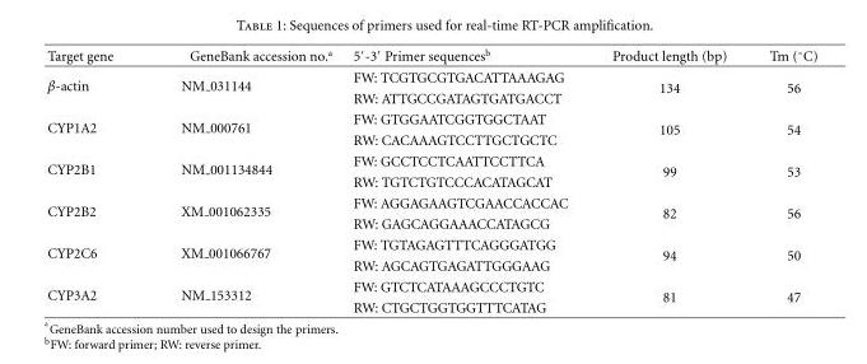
<table><thead><tr><td>Target gene</td><td>GeneBank accession no.<sup>a</sup></td><td>5′-3′ Primer sequences<sup>b</sup></td><td>Product length (bp)</td><td>Tm (◦C)</td></tr></thead><tbody><tr><td rowspan="2">β-actin</td><td rowspan="2">NM 031144</td><td>FW: TCGTGCGTGACATTAAAGAG</td><td rowspan="2">134</td><td rowspan="2">56</td></tr><tr><td>RW: ATTGCCGATAGTGATGACCT</td></tr><tr><td rowspan="2">CYP1A2</td><td rowspan="2">NM 000761</td><td>FW: GTGGAATCGGTGGCTAAT</td><td rowspan="2">105</td><td rowspan="2">54</td></tr><tr><td>RW: CACAAAGTCCTTGCTGCTC</td></tr><tr><td rowspan="2">CYP2B1</td><td rowspan="2">NM 001134844</td><td>FW: GCCTCCTCAATTCCTTCA</td><td rowspan="2">99</td><td rowspan="2">53</td></tr><tr><td>RW: TGTCTGTCCCACATAGCAT</td></tr><tr><td rowspan="2">CYP2B2</td><td rowspan="2">XM 001062335</td><td>FW: AGGAGAAGTCGAACCACCAC</td><td rowspan="2">82</td><td rowspan="2">56</td></tr><tr><td>RW: GAGCAGGAAACCATAGCG</td></tr><tr><td rowspan="2">CYP2C6</td><td rowspan="2">XM 001066767</td><td>FW: TGTAGAGTTTCAGGGATGG</td><td rowspan="2">94</td><td rowspan="2">50</td></tr><tr><td>RW: AGCAGTGAGATTGGGAAG</td></tr><tr><td rowspan="2">CYP3A2</td><td rowspan="2">NM 153312</td><td>FW: GTCTCATAAAGCCCTGTC</td><td rowspan="2">81</td><td rowspan="2">47</td></tr><tr><td>RW: CTGCTGGTGGTTTCATAG</td></tr></tbody></table>